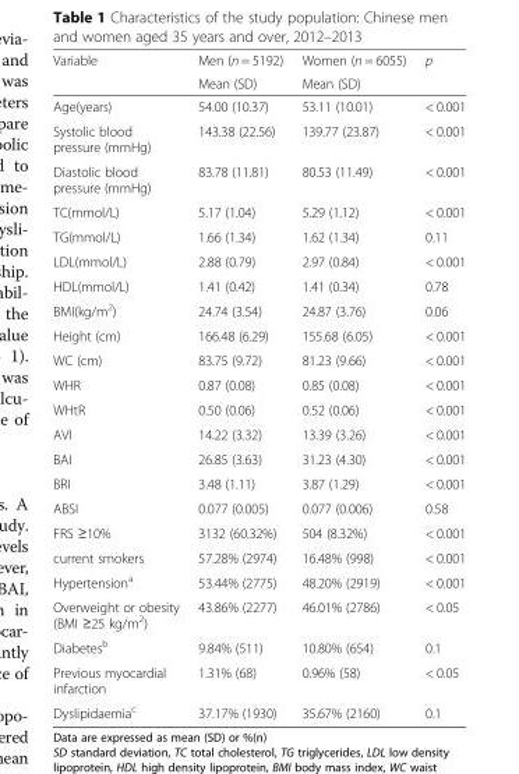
<table><thead><tr><td rowspan="2">Variable</td><td rowspan="2">Men (n = 5192) Mean (SD)</td><td rowspan="2">Women (n = 6055) Mean (SD)</td><td rowspan="2">p</td></tr><tr></tr></thead><tbody><tr><td>Age(years)</td><td>54.00 (10.37)</td><td>53.11 (10.01)</td><td>&lt; 0.001</td></tr><tr><td>Systolic blood pressure (mmHg)</td><td>143.38 (22.56)</td><td>139.77 (23.87)</td><td>&lt; 0.001</td></tr><tr><td>Diastolic blood pressure (mmHg)</td><td>83.78 (11.81)</td><td>80.53 (11.49)</td><td>&lt; 0.001</td></tr><tr><td>TC(mmol/L)</td><td>5.17 (1.04)</td><td>5.29 (1.12)</td><td>&lt; 0.001</td></tr><tr><td>TG(mmol/L)</td><td>1.66 (1.34)</td><td>1.62 (1.34)</td><td>0.11</td></tr><tr><td>LDL(mmol/L)</td><td>2.88 (0.79)</td><td>2.97 (0.84)</td><td>&lt; 0.001</td></tr><tr><td>HDL(mmol/L)</td><td>1.41 (0.42)</td><td>1.41 (0.34)</td><td>0.78</td></tr><tr><td>BMI(kg/m<sup>2</sup>)</td><td>24.74 (3.54)</td><td>24.87 (3.76)</td><td>0.06</td></tr><tr><td>Height (cm)</td><td>166.48 (6.29)</td><td>155.68 (6.05)</td><td>&lt; 0.001</td></tr><tr><td>WC (cm)</td><td>83.75 (9.72)</td><td>81.23 (9.66)</td><td>&lt; 0.001</td></tr><tr><td>WHR</td><td>0.87 (0.08)</td><td>0.85 (0.08)</td><td>&lt; 0.001</td></tr><tr><td>WHtR</td><td>0.50 (0.06)</td><td>0.52 (0.06)</td><td>&lt; 0.001</td></tr><tr><td>AVI</td><td>14.22 (3.32)</td><td>13.39 (3.26)</td><td>&lt; 0.001</td></tr><tr><td>BAI</td><td>26.85 (3.63)</td><td>31.23 (4.30)</td><td>&lt; 0.001</td></tr><tr><td>BRI</td><td>3.48 (1.11)</td><td>3.87 (1.29)</td><td>&lt; 0.001</td></tr><tr><td>ABSI</td><td>0.077 (0.005)</td><td>0.077 (0.006)</td><td>0.58</td></tr><tr><td>FRS ≥10%</td><td>3132 (60.32%)</td><td>504 (8.32%)</td><td>&lt; 0.001</td></tr><tr><td>current smokers</td><td>57.28% (2974)</td><td>16.48% (998)</td><td>&lt; 0.001</td></tr><tr><td>Hypertension<sup>a</sup></td><td>53.44% (2775)</td><td>48.20% (2919)</td><td>&lt; 0.001</td></tr><tr><td>Overweight or obesity (BMI ≥25 kg/m<sup>2</sup>)</td><td>43.86% (2277)</td><td>46.01% (2786)</td><td>&lt; 0.05</td></tr><tr><td>Diabetes<sup>b</sup></td><td>9.84% (511)</td><td>10.80% (654)</td><td>0.1</td></tr><tr><td>Previous myocardial infarction</td><td>1.31% (68)</td><td>0.96% (58)</td><td>&lt; 0.05</td></tr><tr><td>Dyslipidaemia<sup>c</sup></td><td>37.17% (1930)</td><td>35.67% (2160)</td><td>0.1</td></tr></tbody></table>